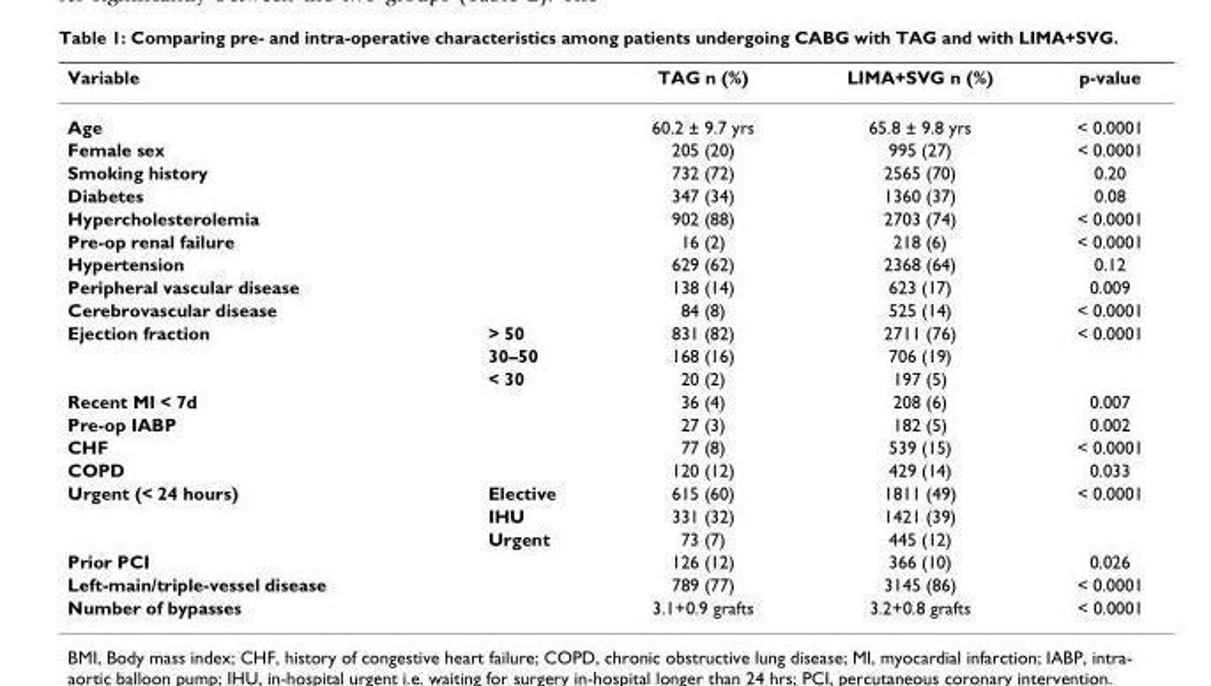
<table><thead><tr><td>Variable</td><td></td><td>TAG n (%)</td><td>LIMA+SVG n (%)</td><td>p-value</td></tr></thead><tbody><tr><td>Age</td><td></td><td>60.2 ± 9.7 yrs</td><td>65.8 ± 9.8 yrs</td><td>&lt; 0.0001</td></tr><tr><td>Female sex</td><td></td><td>205 (20)</td><td>995 (27)</td><td>&lt; 0.0001</td></tr><tr><td>Smoking history</td><td></td><td>732 (72)</td><td>2565 (70)</td><td>0.20</td></tr><tr><td>Diabetes</td><td></td><td>347 (34)</td><td>1360 (37)</td><td>0.08</td></tr><tr><td>Hypercholesterolemia</td><td></td><td>902 (88)</td><td>2703 (74)</td><td>&lt; 0.0001</td></tr><tr><td>Pre-op renal failure</td><td></td><td>16 (2)</td><td>218 (6)</td><td>&lt; 0.0001</td></tr><tr><td>Hypertension</td><td></td><td>629 (62)</td><td>2368 (64)</td><td>0.12</td></tr><tr><td>Peripheral vascular disease</td><td></td><td>138 (14)</td><td>623 (17)</td><td>0.009</td></tr><tr><td>Cerebrovascular disease</td><td></td><td>84 (8)</td><td>525 (14)</td><td>&lt; 0.0001</td></tr><tr><td rowspan="3">Ejection fraction</td><td>&gt; 50</td><td>831 (82)</td><td>2711 (76)</td><td>&lt; 0.0001</td></tr><tr><td>30–50</td><td>168 (16)</td><td>706 (19)</td><td></td></tr><tr><td>&lt; 30</td><td>20 (2)</td><td>197 (5)</td><td></td></tr><tr><td>Recent MI &lt; 7d</td><td></td><td>36 (4)</td><td>208 (6)</td><td>0.007</td></tr><tr><td>Pre-op IABP</td><td></td><td>27 (3)</td><td>182 (5)</td><td>0.002</td></tr><tr><td>CHF</td><td></td><td>77 (8)</td><td>539 (15)</td><td>&lt; 0.0001</td></tr><tr><td>COPD</td><td></td><td>120 (12)</td><td>429 (14)</td><td>0.033</td></tr><tr><td rowspan="3">Urgent (&lt; 24 hours)</td><td>Elective</td><td>615 (60)</td><td>1811 (49)</td><td>&lt; 0.0001</td></tr><tr><td>IHU</td><td>331 (32)</td><td>1421 (39)</td><td></td></tr><tr><td>Urgent</td><td>73 (7)</td><td>445 (12)</td><td></td></tr><tr><td>Prior PCI</td><td></td><td>126 (12)</td><td>366 (10)</td><td>0.026</td></tr><tr><td>Left-main/triple-vessel disease</td><td></td><td>789 (77)</td><td>3145 (86)</td><td>&lt; 0.0001</td></tr><tr><td>Number of bypasses</td><td></td><td>3.1+0.9 grafts</td><td>3.2+0.8 grafts</td><td>&lt; 0.0001</td></tr></tbody></table>